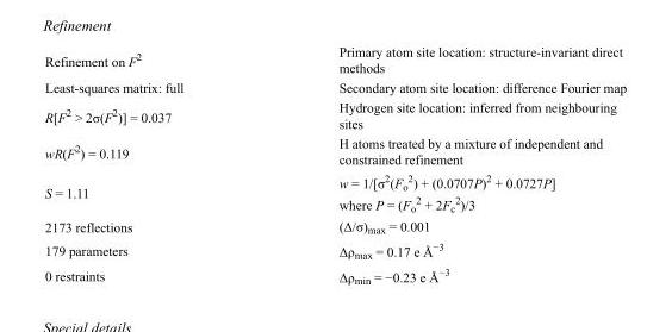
<table><tbody><tr><td>Refinement on F<sup>2</sup></td><td>Primary atom site location: structure-invariant direct methods</td></tr><tr><td>Least-squares matrix: full</td><td>Secondary atom site location: difference Fourier map</td></tr><tr><td>R[F<sup>2</sup> &gt; 2σ(F<sup>2</sup>)] = 0.037</td><td>Hydrogen site location: inferred from neighbouring sites</td></tr><tr><td>wR(F<sup>2</sup>) = 0.119</td><td>H atoms treated by a mixture of independent and constrained refinement</td></tr><tr><td>S = 1.11</td><td>w = 1/[σ<sup>2</sup>(F<sub>o</sub> <sup>2</sup>) + (0.0707P)<sup>2</sup> + 0.0727P] where P = (F<sub>o</sub> <sup>2</sup> + 2F<sub>c</sub> <sup>2</sup>)/3</td></tr><tr><td>2173 reflections</td><td>(Δ/σ)<sub>max</sub> = 0.001</td></tr><tr><td>179 parameters</td><td>Δρ<sub>max</sub> = 0.17 e Å<sup>−3</sup></td></tr><tr><td>0 restraints</td><td>Δρ<sub>min</sub> = −0.23 e Å<sup>−3</sup></td></tr></tbody></table>